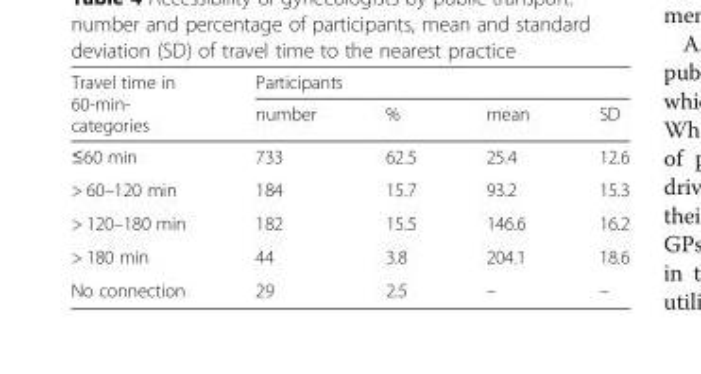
<table><thead><tr><td rowspan="2">Travel time in 60-min- categories</td><td colspan="4">Participants</td></tr><tr><td>number</td><td>%</td><td>mean</td><td>SD</td></tr></thead><tbody><tr><td>≤60 min</td><td>733</td><td>62.5</td><td>25.4</td><td>12.6</td></tr><tr><td>&gt; 60–120 min</td><td>184</td><td>15.7</td><td>93.2</td><td>15.3</td></tr><tr><td>&gt; 120–180 min</td><td>182</td><td>15.5</td><td>146.6</td><td>16.2</td></tr><tr><td>&gt; 180 min</td><td>44</td><td>3.8</td><td>204.1</td><td>18.6</td></tr><tr><td>No connection</td><td>29</td><td>2.5</td><td>–</td><td>–</td></tr></tbody></table>